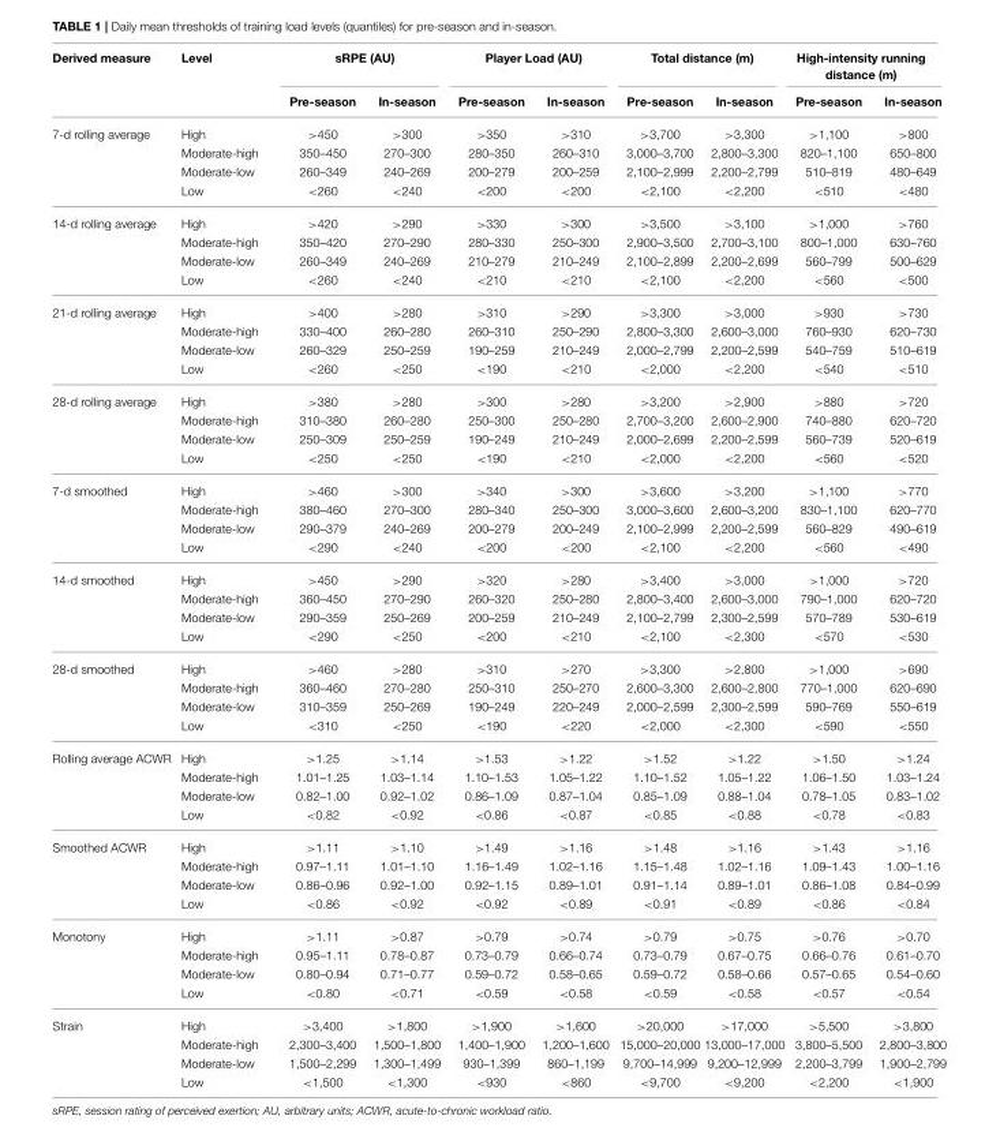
<table><thead><tr><td rowspan="2">Derived measure</td><td rowspan="2">Level</td><td colspan="2">sRPE (AU)</td><td colspan="2">Player Load (AU)</td><td colspan="2">Total distance (m)</td><td colspan="2">High-intensity running distance (m)</td></tr><tr><td>Pre-season</td><td>In-season</td><td>Pre-season</td><td>In-season</td><td>Pre-season</td><td>In-season</td><td>Pre-season</td><td>In-season</td></tr></thead><tbody><tr><td rowspan="4">7-d rolling average</td><td>High</td><td>&gt;450</td><td>&gt;300</td><td>&gt;350</td><td>&gt;310</td><td>&gt;3,700</td><td>&gt;3,300</td><td>&gt;1,100</td><td>&gt;800</td></tr><tr><td>Moderate-high</td><td>350–450</td><td>270–300</td><td>280–350</td><td>260–310</td><td>3,000–3,700</td><td>2,800–3,300</td><td>820–1,100</td><td>650–800</td></tr><tr><td>Moderate-low</td><td>260–349</td><td>240–269</td><td>200–279</td><td>200–259</td><td>2,100–2,999</td><td>2,200–2,799</td><td>510–819</td><td>480–649</td></tr><tr><td>Low</td><td>&lt;260</td><td>&lt;240</td><td>&lt;200</td><td>&lt;200</td><td>&lt;2,100</td><td>&lt;2,200</td><td>&lt;510</td><td>&lt;480</td></tr><tr><td rowspan="4">14-d rolling average</td><td>High</td><td>&gt;420</td><td>&gt;290</td><td>&gt;330</td><td>&gt;300</td><td>&gt;3,500</td><td>&gt;3,100</td><td>&gt;1,000</td><td>&gt;760</td></tr><tr><td>Moderate-high</td><td>350–420</td><td>270–290</td><td>280–330</td><td>250–300</td><td>2,900–3,500</td><td>2,700–3,100</td><td>800–1,000</td><td>630–760</td></tr><tr><td>Moderate-low</td><td>260–349</td><td>240–269</td><td>210–279</td><td>210–249</td><td>2,100–2,899</td><td>2,200–2,699</td><td>560–799</td><td>500–629</td></tr><tr><td>Low</td><td>&lt;260</td><td>&lt;240</td><td>&lt;210</td><td>&lt;210</td><td>&lt;2,100</td><td>&lt;2,200</td><td>&lt;560</td><td>&lt;500</td></tr><tr><td rowspan="4">21-d rolling average</td><td>High</td><td>&gt;400</td><td>&gt;280</td><td>&gt;310</td><td>&gt;290</td><td>&gt;3,300</td><td>&gt;3,000</td><td>&gt;930</td><td>&gt;730</td></tr><tr><td>Moderate-high</td><td>330–400</td><td>260–280</td><td>260–310</td><td>250–290</td><td>2,800–3,300</td><td>2,600–3,000</td><td>760–930</td><td>620–730</td></tr><tr><td>Moderate-low</td><td>260–329</td><td>250–259</td><td>190–259</td><td>210–249</td><td>2,000–2,799</td><td>2,200–2,599</td><td>540–759</td><td>510–619</td></tr><tr><td>Low</td><td>&lt;260</td><td>&lt;250</td><td>&lt;190</td><td>&lt;210</td><td>&lt;2,000</td><td>&lt;2,200</td><td>&lt;540</td><td>&lt;510</td></tr><tr><td rowspan="4">28-d rolling average</td><td>High</td><td>&gt;380</td><td>&gt;280</td><td>&gt;300</td><td>&gt;280</td><td>&gt;3,200</td><td>&gt;2,900</td><td>&gt;880</td><td>&gt;720</td></tr><tr><td>Moderate-high</td><td>310–380</td><td>260–280</td><td>250–300</td><td>250–280</td><td>2,700–3,200</td><td>2,600–2,900</td><td>740–880</td><td>620–720</td></tr><tr><td>Moderate-low</td><td>250–309</td><td>250–259</td><td>190–249</td><td>210–249</td><td>2,000–2,699</td><td>2,200–2,599</td><td>560–739</td><td>520–619</td></tr><tr><td>Low</td><td>&lt;250</td><td>&lt;250</td><td>&lt;190</td><td>&lt;210</td><td>&lt;2,000</td><td>&lt;2,200</td><td>&lt;560</td><td>&lt;520</td></tr><tr><td rowspan="4">7-d smoothed</td><td>High</td><td>&gt;460</td><td>&gt;300</td><td>&gt;340</td><td>&gt;300</td><td>&gt;3,600</td><td>&gt;3,200</td><td>&gt;1,100</td><td>&gt;770</td></tr><tr><td>Moderate-high</td><td>380–460</td><td>270–300</td><td>280–340</td><td>250–300</td><td>3,000–3,600</td><td>2,600–3,200</td><td>830–1,100</td><td>620–770</td></tr><tr><td>Moderate-low</td><td>290–379</td><td>240–269</td><td>200–279</td><td>200–249</td><td>2,100–2,999</td><td>2,200–2,599</td><td>560–829</td><td>490–619</td></tr><tr><td>Low</td><td>&lt;290</td><td>&lt;240</td><td>&lt;200</td><td>&lt;200</td><td>&lt;2,100</td><td>&lt;2,200</td><td>&lt;560</td><td>&lt;490</td></tr><tr><td rowspan="4">14-d smoothed</td><td>High</td><td>&gt;450</td><td>&gt;290</td><td>&gt;320</td><td>&gt;280</td><td>&gt;3,400</td><td>&gt;3,000</td><td>&gt;1,000</td><td>&gt;720</td></tr><tr><td>Moderate-high</td><td>360–450</td><td>270–290</td><td>260–320</td><td>250–280</td><td>2,800–3,400</td><td>2,600–3,000</td><td>790–1,000</td><td>620–720</td></tr><tr><td>Moderate-low</td><td>290–359</td><td>250–269</td><td>200–259</td><td>210–249</td><td>2,100–2,799</td><td>2,300–2,599</td><td>570–789</td><td>530–619</td></tr><tr><td>Low</td><td>&lt;290</td><td>&lt;250</td><td>&lt;200</td><td>&lt;210</td><td>&lt;2,100</td><td>&lt;2,300</td><td>&lt;570</td><td>&lt;530</td></tr><tr><td rowspan="4">28-d smoothed</td><td>High</td><td>&gt;460</td><td>&gt;280</td><td>&gt;310</td><td>&gt;270</td><td>&gt;3,300</td><td>&gt;2,800</td><td>&gt;1,000</td><td>&gt;690</td></tr><tr><td>Moderate-high</td><td>360–460</td><td>270–280</td><td>250–310</td><td>250–270</td><td>2,600–3,300</td><td>2,600–2,800</td><td>770–1,000</td><td>620–690</td></tr><tr><td>Moderate-low</td><td>310–359</td><td>250–269</td><td>190–249</td><td>220–249</td><td>2,000–2,599</td><td>2,300–2,599</td><td>590–769</td><td>550–619</td></tr><tr><td>Low</td><td>&lt;310</td><td>&lt;250</td><td>&lt;190</td><td>&lt;220</td><td>&lt;2,000</td><td>&lt;2,300</td><td>&lt;590</td><td>&lt;550</td></tr><tr><td rowspan="4">Rolling average ACWR</td><td>High</td><td>&gt;1.25</td><td>&gt;1.14</td><td>&gt;1.53</td><td>&gt;1.22</td><td>&gt;1.52</td><td>&gt;1.22</td><td>&gt;1.50</td><td>&gt;1.24</td></tr><tr><td>Moderate-high</td><td>1.01–1.25</td><td>1.03–1.14</td><td>1.10–1.53</td><td>1.05–1.22</td><td>1.10–1.52</td><td>1.05–1.22</td><td>1.06–1.50</td><td>1.03–1.24</td></tr><tr><td>Moderate-low</td><td>0.82–1.00</td><td>0.92–1.02</td><td>0.86–1.09</td><td>0.87–1.04</td><td>0.85–1.09</td><td>0.88–1.04</td><td>0.78–1.05</td><td>0.83–1.02</td></tr><tr><td>Low</td><td>&lt;0.82</td><td>&lt;0.92</td><td>&lt;0.86</td><td>&lt;0.87</td><td>&lt;0.85</td><td>&lt;0.88</td><td>&lt;0.78</td><td>&lt;0.83</td></tr><tr><td rowspan="4">Smoothed ACWR</td><td>High</td><td>&gt;1.11</td><td>&gt;1.10</td><td>&gt;1.49</td><td>&gt;1.16</td><td>&gt;1.48</td><td>&gt;1.16</td><td>&gt;1.43</td><td>&gt;1.16</td></tr><tr><td>Moderate-high</td><td>0.97–1.11</td><td>1.01–1.10</td><td>1.16–1.49</td><td>1.02–1.16</td><td>1.15–1.48</td><td>1.02–1.16</td><td>1.09–1.43</td><td>1.00–1.16</td></tr><tr><td>Moderate-low</td><td>0.86–0.96</td><td>0.92–1.00</td><td>0.92–1.15</td><td>0.89–1.01</td><td>0.91–1.14</td><td>0.89–1.01</td><td>0.86–1.08</td><td>0.84–0.99</td></tr><tr><td>Low</td><td>&lt;0.86</td><td>&lt;0.92</td><td>&lt;0.92</td><td>&lt;0.89</td><td>&lt;0.91</td><td>&lt;0.89</td><td>&lt;0.86</td><td>&lt;0.84</td></tr><tr><td rowspan="4">Monotony</td><td>High</td><td>&gt;1.11</td><td>&gt;0.87</td><td>&gt;0.79</td><td>&gt;0.74</td><td>&gt;0.79</td><td>&gt;0.75</td><td>&gt;0.76</td><td>&gt;0.70</td></tr><tr><td>Moderate-high</td><td>0.95–1.11</td><td>0.78–0.87</td><td>0.73–0.79</td><td>0.66–0.74</td><td>0.73–0.79</td><td>0.67–0.75</td><td>0.66–0.76</td><td>0.61–0.70</td></tr><tr><td>Moderate-low</td><td>0.80–0.94</td><td>0.71–0.77</td><td>0.59–0.72</td><td>0.58–0.65</td><td>0.59–0.72</td><td>0.58–0.66</td><td>0.57–0.65</td><td>0.54–0.60</td></tr><tr><td>Low</td><td>&lt;0.80</td><td>&lt;0.71</td><td>&lt;0.59</td><td>&lt;0.58</td><td>&lt;0.59</td><td>&lt;0.58</td><td>&lt;0.57</td><td>&lt;0.54</td></tr><tr><td rowspan="4">Strain</td><td>High</td><td>&gt;3,400</td><td>&gt;1,800</td><td>&gt;1,900</td><td>&gt;1,600</td><td>&gt;20,000</td><td>&gt;17,000</td><td>&gt;5,500</td><td>&gt;3,800</td></tr><tr><td>Moderate-high</td><td>2,300–3,400</td><td>1,500–1,800</td><td>1,400–1,900</td><td>1,200–1,600</td><td>15,000–20,000</td><td>13,000–17,000</td><td>3,800–5,500</td><td>2,800–3,800</td></tr><tr><td>Moderate-low</td><td>1,500–2,299</td><td>1,300–1,499</td><td>930–1,399</td><td>860–1,199</td><td>9,700–14,999</td><td>9,200–12,999</td><td>2,200–3,799</td><td>1,900–2,799</td></tr><tr><td>Low</td><td>&lt;1,500</td><td>&lt;1,300</td><td>&lt;930</td><td>&lt;860</td><td>&lt;9,700</td><td>&lt;9,200</td><td>&lt;2,200</td><td>&lt;1,900</td></tr></tbody></table>